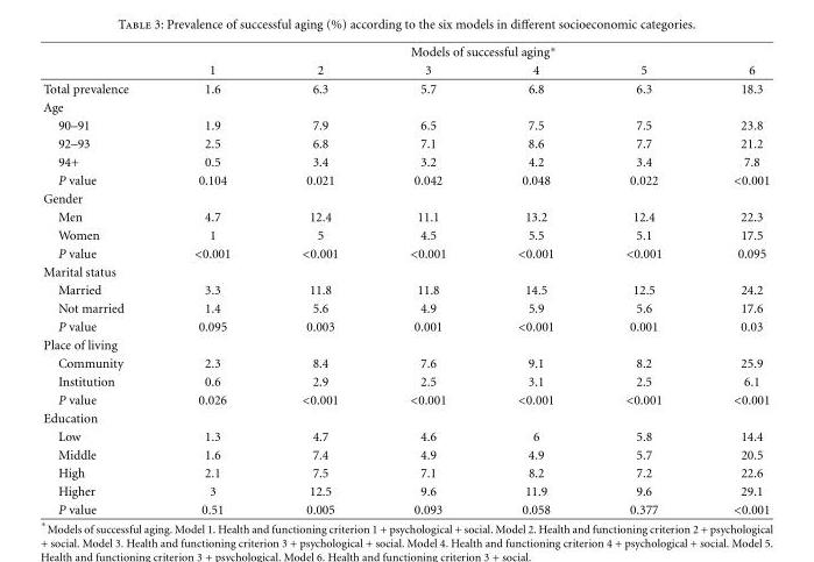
<table><thead><tr><td rowspan="2"></td><td colspan="6">Models of successful aging∗</td></tr><tr><td>1</td><td>2</td><td>3</td><td>4</td><td>5</td><td>6</td></tr></thead><tbody><tr><td>Total prevalence</td><td>1.6</td><td>6.3</td><td>5.7</td><td>6.8</td><td>6.3</td><td>18.3</td></tr><tr><td colspan="7">Age</td></tr><tr><td>90–91</td><td>1.9</td><td>7.9</td><td>6.5</td><td>7.5</td><td>7.5</td><td>23.8</td></tr><tr><td>92–93</td><td>2.5</td><td>6.8</td><td>7.1</td><td>8.6</td><td>7.7</td><td>21.2</td></tr><tr><td>94+</td><td>0.5</td><td>3.4</td><td>3.2</td><td>4.2</td><td>3.4</td><td>7.8</td></tr><tr><td>P value</td><td>0.104</td><td>0.021</td><td>0.042</td><td>0.048</td><td>0.022</td><td>&lt;0.001</td></tr><tr><td colspan="7">Gender</td></tr><tr><td>Men</td><td>4.7</td><td>12.4</td><td>11.1</td><td>13.2</td><td>12.4</td><td>22.3</td></tr><tr><td>Women</td><td>1</td><td>5</td><td>4.5</td><td>5.5</td><td>5.1</td><td>17.5</td></tr><tr><td>P value</td><td>&lt;0.001</td><td>&lt;0.001</td><td>&lt;0.001</td><td>&lt;0.001</td><td>&lt;0.001</td><td>0.095</td></tr><tr><td colspan="7">Marital status</td></tr><tr><td>Married</td><td>3.3</td><td>11.8</td><td>11.8</td><td>14.5</td><td>12.5</td><td>24.2</td></tr><tr><td>Not married</td><td>1.4</td><td>5.6</td><td>4.9</td><td>5.9</td><td>5.6</td><td>17.6</td></tr><tr><td>P value</td><td>0.095</td><td>0.003</td><td>0.001</td><td>&lt;0.001</td><td>0.001</td><td>0.03</td></tr><tr><td colspan="7">Place of living</td></tr><tr><td>Community</td><td>2.3</td><td>8.4</td><td>7.6</td><td>9.1</td><td>8.2</td><td>25.9</td></tr><tr><td>Institution</td><td>0.6</td><td>2.9</td><td>2.5</td><td>3.1</td><td>2.5</td><td>6.1</td></tr><tr><td>P value</td><td>0.026</td><td>&lt;0.001</td><td>&lt;0.001</td><td>&lt;0.001</td><td>&lt;0.001</td><td>&lt;0.001</td></tr><tr><td colspan="7">Education</td></tr><tr><td>Low</td><td>1.3</td><td>4.7</td><td>4.6</td><td>6</td><td>5.8</td><td>14.4</td></tr><tr><td>Middle</td><td>1.6</td><td>7.4</td><td>4.9</td><td>4.9</td><td>5.7</td><td>20.5</td></tr><tr><td>High</td><td>2.1</td><td>7.5</td><td>7.1</td><td>8.2</td><td>7.2</td><td>22.6</td></tr><tr><td>Higher</td><td>3</td><td>12.5</td><td>9.6</td><td>11.9</td><td>9.6</td><td>29.1</td></tr><tr><td>P value</td><td>0.51</td><td>0.005</td><td>0.093</td><td>0.058</td><td>0.377</td><td>&lt;0.001</td></tr></tbody></table>